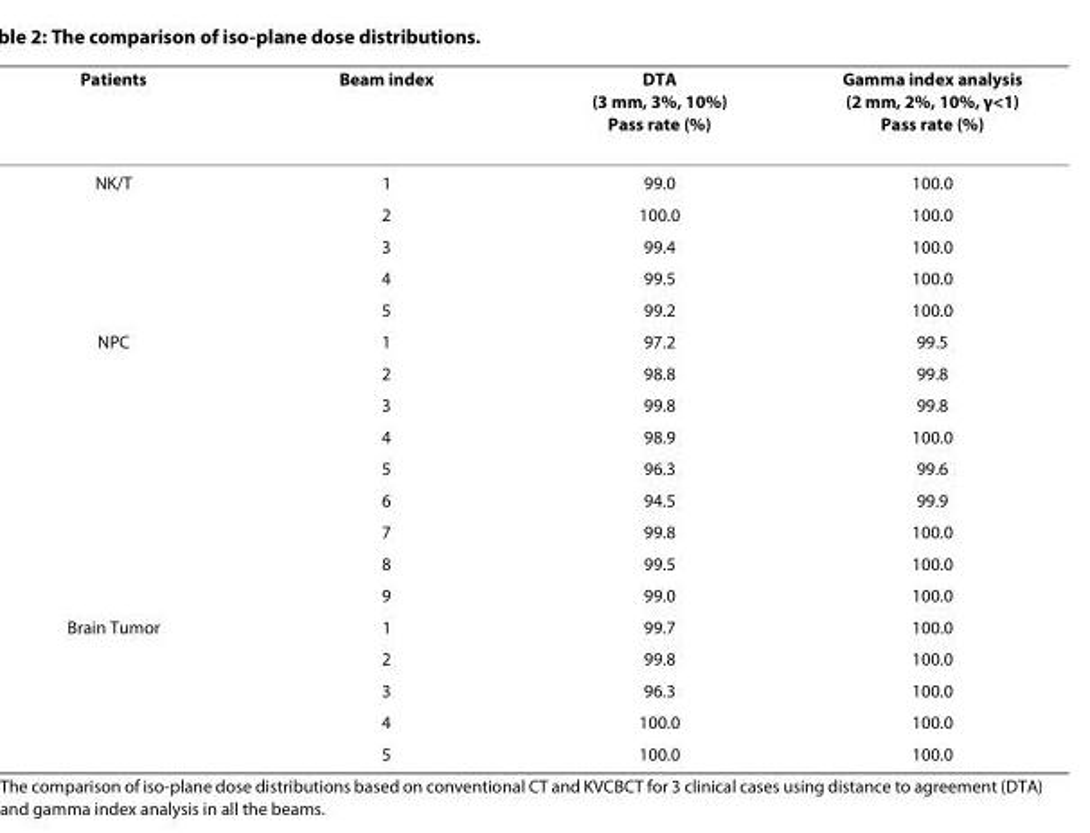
<table><thead><tr><td>Patients</td><td>Beam index</td><td>DTA (3 mm, 3%, 10%) Pass rate (%)</td><td>Gamma index analysis (2 mm, 2%, 10%, γ&lt;1) Pass rate (%)</td></tr></thead><tbody><tr><td rowspan="5">NK/T</td><td>1</td><td>99.0</td><td>100.0</td></tr><tr><td>2</td><td>100.0</td><td>100.0</td></tr><tr><td>3</td><td>99.4</td><td>100.0</td></tr><tr><td>4</td><td>99.5</td><td>100.0</td></tr><tr><td>5</td><td>99.2</td><td>100.0</td></tr><tr><td rowspan="9">NPC</td><td>1</td><td>97.2</td><td>99.5</td></tr><tr><td>2</td><td>98.8</td><td>99.8</td></tr><tr><td>3</td><td>99.8</td><td>99.8</td></tr><tr><td>4</td><td>98.9</td><td>100.0</td></tr><tr><td>5</td><td>96.3</td><td>99.6</td></tr><tr><td>6</td><td>94.5</td><td>99.9</td></tr><tr><td>7</td><td>99.8</td><td>100.0</td></tr><tr><td>8</td><td>99.5</td><td>100.0</td></tr><tr><td>9</td><td>99.0</td><td>100.0</td></tr><tr><td rowspan="5">Brain Tumor</td><td>1</td><td>99.7</td><td>100.0</td></tr><tr><td>2</td><td>99.8</td><td>100.0</td></tr><tr><td>3</td><td>96.3</td><td>100.0</td></tr><tr><td>4</td><td>100.0</td><td>100.0</td></tr><tr><td>5</td><td>100.0</td><td>100.0</td></tr></tbody></table>